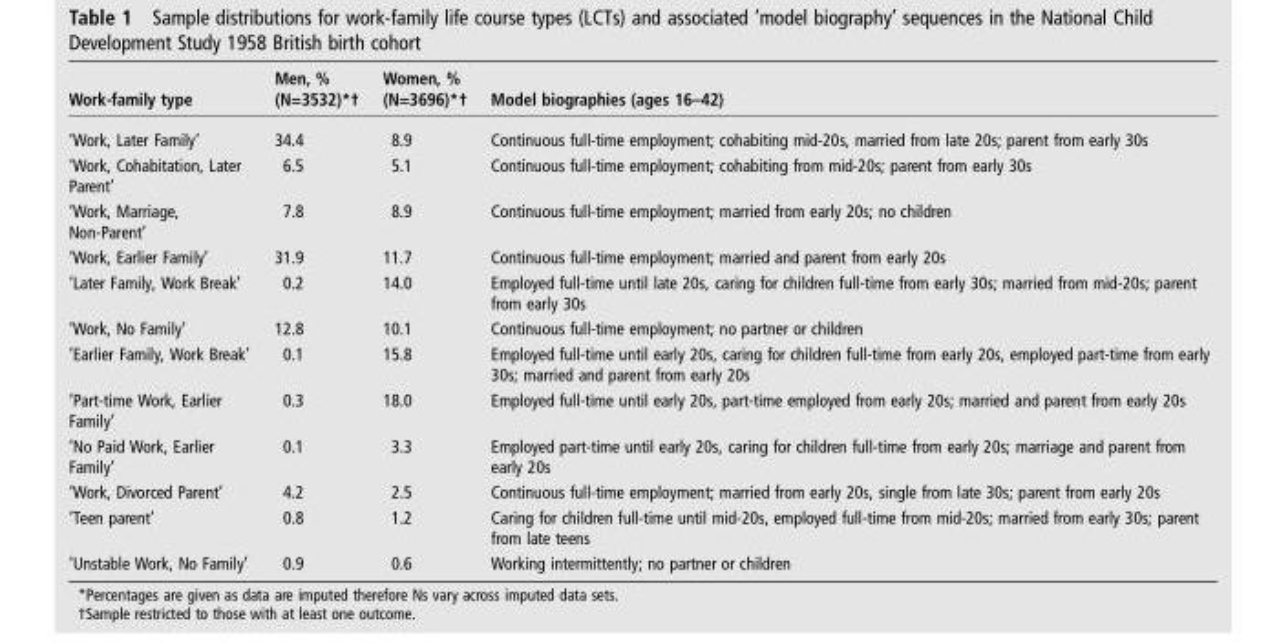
<table><thead><tr><td>Work-family type</td><td>Men, % (N=3532)*†</td><td>Women, % (N=3696)*†</td><td>Model biographies (ages 16–42)</td></tr></thead><tbody><tr><td>‘Work, Later Family’</td><td>34.4</td><td>8.9</td><td>Continuous full-time employment; cohabiting mid-20s, married from late 20s; parent from early 30s</td></tr><tr><td>‘Work, Cohabitation, Later Parent’</td><td>6.5</td><td>5.1</td><td>Continuous full-time employment; cohabiting from mid-20s; parent from early 30s</td></tr><tr><td>‘Work, Marriage, Non-Parent’</td><td>7.8</td><td>8.9</td><td>Continuous full-time employment; married from early 20s; no children</td></tr><tr><td>‘Work, Earlier Family’</td><td>31.9</td><td>11.7</td><td>Continuous full-time employment; married and parent from early 20s</td></tr><tr><td>‘Later Family, Work Break’</td><td>0.2</td><td>14.0</td><td>Employed full-time until late 20s, caring for children full-time from early 30s; married from mid-20s; parent from early 30s</td></tr><tr><td>‘Work, No Family’</td><td>12.8</td><td>10.1</td><td>Continuous full-time employment; no partner or children</td></tr><tr><td>‘Earlier Family, Work Break’</td><td>0.1</td><td>15.8</td><td>Employed full-time until early 20s, caring for children full-time from early 20s, employed part-time from early 30s; married and parent from early 20s</td></tr><tr><td>‘Part-time Work, Earlier Family’</td><td>0.3</td><td>18.0</td><td>Employed full-time until early 20s, part-time employed from early 20s; married and parent from early 20s</td></tr><tr><td>‘No Paid Work, Earlier Family’</td><td>0.1</td><td>3.3</td><td>Employed part-time until early 20s, caring for children full-time from early 20s; marriage and parent from early 20s</td></tr><tr><td>‘Work, Divorced Parent’</td><td>4.2</td><td>2.5</td><td>Continuous full-time employment; married from early 20s, single from late 30s; parent from early 20s</td></tr><tr><td>‘Teen parent’</td><td>0.8</td><td>1.2</td><td>Caring for children full-time until mid-20s, employed full-time from mid-20s; married from early 30s; parent from late teens</td></tr><tr><td>‘Unstable Work, No Family’</td><td>0.9</td><td>0.6</td><td>Working intermittently; no partner or children</td></tr></tbody></table>